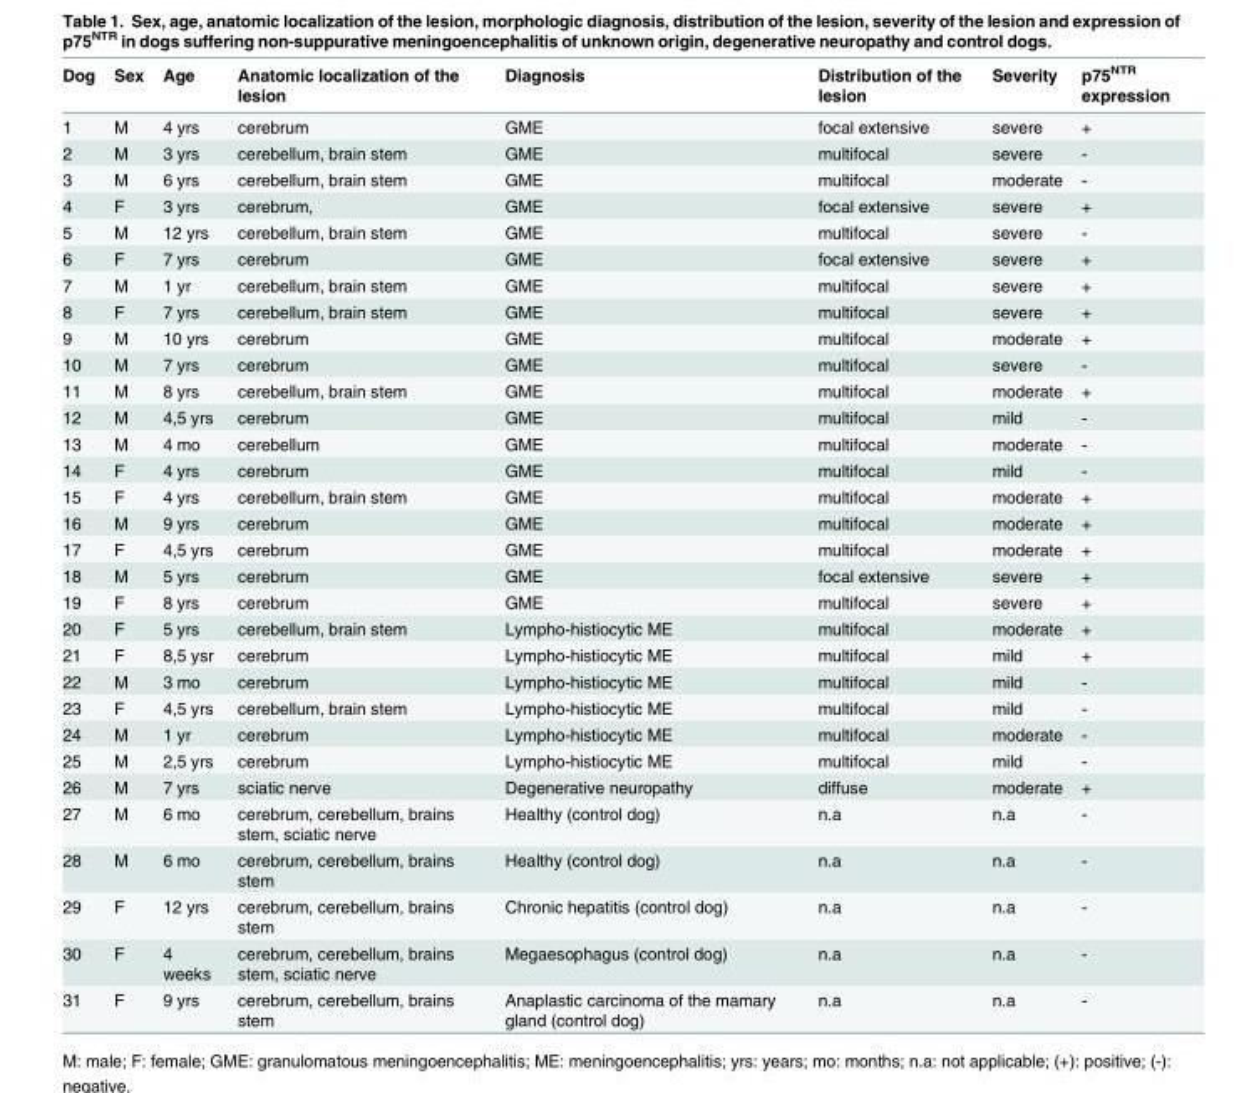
<table><thead><tr><td>Dog</td><td>Sex</td><td>Age</td><td>Anatomic localization of the lesion</td><td>Diagnosis</td><td>Distribution of the lesion</td><td>Severity</td><td>p75<sup>NTR</sup> expression</td></tr></thead><tbody><tr><td>1</td><td>M</td><td>4 yrs</td><td>cerebrum</td><td>GME</td><td>focal extensive</td><td>severe</td><td>+</td></tr><tr><td>2</td><td>M</td><td>3 yrs</td><td>cerebellum, brain stem</td><td>GME</td><td>multifocal</td><td>severe</td><td>-</td></tr><tr><td>3</td><td>M</td><td>6 yrs</td><td>cerebellum, brain stem</td><td>GME</td><td>multifocal</td><td>moderate</td><td>-</td></tr><tr><td>4</td><td>F</td><td>3 yrs</td><td>cerebrum,</td><td>GME</td><td>focal extensive</td><td>severe</td><td>+</td></tr><tr><td>5</td><td>M</td><td>12 yrs</td><td>cerebellum, brain stem</td><td>GME</td><td>multifocal</td><td>severe</td><td>-</td></tr><tr><td>6</td><td>F</td><td>7 yrs</td><td>cerebrum</td><td>GME</td><td>focal extensive</td><td>severe</td><td>+</td></tr><tr><td>7</td><td>M</td><td>1 yr</td><td>cerebellum, brain stem</td><td>GME</td><td>multifocal</td><td>severe</td><td>+</td></tr><tr><td>8</td><td>F</td><td>7 yrs</td><td>cerebellum, brain stem</td><td>GME</td><td>multifocal</td><td>severe</td><td>+</td></tr><tr><td>9</td><td>M</td><td>10 yrs</td><td>cerebrum</td><td>GME</td><td>multifocal</td><td>moderate</td><td>+</td></tr><tr><td>10</td><td>M</td><td>7 yrs</td><td>cerebrum</td><td>GME</td><td>multifocal</td><td>severe</td><td>-</td></tr><tr><td>11</td><td>M</td><td>8 yrs</td><td>cerebellum, brain stem</td><td>GME</td><td>multifocal</td><td>moderate</td><td>+</td></tr><tr><td>12</td><td>M</td><td>4,5 yrs</td><td>cerebrum</td><td>GME</td><td>multifocal</td><td>mild</td><td>-</td></tr><tr><td>13</td><td>M</td><td>4 mo</td><td>cerebellum</td><td>GME</td><td>multifocal</td><td>moderate</td><td>-</td></tr><tr><td>14</td><td>F</td><td>4 yrs</td><td>cerebrum</td><td>GME</td><td>multifocal</td><td>mild</td><td>-</td></tr><tr><td>15</td><td>F</td><td>4 yrs</td><td>cerebellum, brain stem</td><td>GME</td><td>multifocal</td><td>moderate</td><td>+</td></tr><tr><td>16</td><td>M</td><td>9 yrs</td><td>cerebrum</td><td>GME</td><td>multifocal</td><td>moderate</td><td>+</td></tr><tr><td>17</td><td>F</td><td>4,5 yrs</td><td>cerebrum</td><td>GME</td><td>multifocal</td><td>moderate</td><td>+</td></tr><tr><td>18</td><td>M</td><td>5 yrs</td><td>cerebrum</td><td>GME</td><td>focal extensive</td><td>severe</td><td>+</td></tr><tr><td>19</td><td>F</td><td>8 yrs</td><td>cerebrum</td><td>GME</td><td>multifocal</td><td>severe</td><td>+</td></tr><tr><td>20</td><td>F</td><td>5 yrs</td><td>cerebellum, brain stem</td><td>Lympho-histiocytic ME</td><td>multifocal</td><td>moderate</td><td>+</td></tr><tr><td>21</td><td>F</td><td>8,5 ysr</td><td>cerebrum</td><td>Lympho-histiocytic ME</td><td>multifocal</td><td>mild</td><td>+</td></tr><tr><td>22</td><td>M</td><td>3 mo</td><td>cerebrum</td><td>Lympho-histiocytic ME</td><td>multifocal</td><td>mild</td><td>-</td></tr><tr><td>23</td><td>F</td><td>4,5 yrs</td><td>cerebellum, brain stem</td><td>Lympho-histiocytic ME</td><td>multifocal</td><td>mild</td><td>-</td></tr><tr><td>24</td><td>M</td><td>1 yr</td><td>cerebrum</td><td>Lympho-histiocytic ME</td><td>multifocal</td><td>moderate</td><td>-</td></tr><tr><td>25</td><td>M</td><td>2,5 yrs</td><td>cerebrum</td><td>Lympho-histiocytic ME</td><td>multifocal</td><td>mild</td><td>-</td></tr><tr><td>26</td><td>M</td><td>7 yrs</td><td>sciatic nerve</td><td>Degenerative neuropathy</td><td>diffuse</td><td>moderate</td><td>+</td></tr><tr><td>27</td><td>M</td><td>6 mo</td><td>cerebrum, cerebellum, brains stem, sciatic nerve</td><td>Healthy (control dog)</td><td>n.a</td><td>n.a</td><td>-</td></tr><tr><td>28</td><td>M</td><td>6 mo</td><td>cerebrum, cerebellum, brains stem</td><td>Healthy (control dog)</td><td>n.a</td><td>n.a</td><td>-</td></tr><tr><td>29</td><td>F</td><td>12 yrs</td><td>cerebrum, cerebellum, brains stem</td><td>Chronic hepatitis (control dog)</td><td>n.a</td><td>n.a</td><td>-</td></tr><tr><td>30</td><td>F</td><td>4 weeks</td><td>cerebrum, cerebellum, brains stem, sciatic nerve</td><td>Megaesophagus (control dog)</td><td>n.a</td><td>n.a</td><td>-</td></tr><tr><td>31</td><td>F</td><td>9 yrs</td><td>cerebrum, cerebellum, brains stem</td><td>Anaplastic carcinoma of the mamary gland (control dog)</td><td>n.a</td><td>n.a</td><td>-</td></tr></tbody></table>